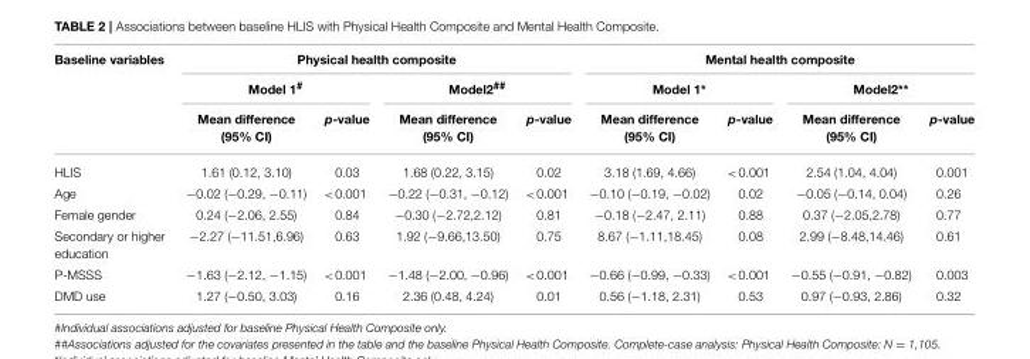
<table><thead><tr><td rowspan="3">Baseline variables</td><td colspan="4">Physical health composite</td><td colspan="4">Mental health composite</td></tr><tr><td colspan="2">Model 1<sup>#</sup></td><td colspan="2">Model2<sup>##</sup></td><td colspan="2">Model 1*</td><td colspan="2">Model2**</td></tr><tr><td>Mean difference (95% CI)</td><td>p-value</td><td>Mean difference (95% CI)</td><td>p-value</td><td>Mean difference (95% CI)</td><td>p-value</td><td>Mean difference (95% CI)</td><td>p-value</td></tr></thead><tbody><tr><td>HLIS</td><td>1.61 (0.12, 3.10)</td><td>0.03</td><td>1.68 (0.22, 3.15)</td><td>0.02</td><td>3.18 (1.69, 4.66)</td><td>&lt;0.001</td><td>2.54 (1.04, 4.04)</td><td>0.001</td></tr><tr><td>Age</td><td>−0.02 (−0.29, −0.11)</td><td>&lt;0.001</td><td>−0.22 (−0.31, −0.12)</td><td>&lt;0.001</td><td>−0.10 (−0.19, −0.02)</td><td>0.02</td><td>−0.05 (−0.14, 0.04)</td><td>0.26</td></tr><tr><td>Female gender</td><td>0.24 (−2.06, 2.55)</td><td>0.84</td><td>−0.30 (−2.72,2.12)</td><td>0.81</td><td>−0.18 (−2.47, 2.11)</td><td>0.88</td><td>0.37 (−2.05,2.78)</td><td>0.77</td></tr><tr><td>Secondary or higher education</td><td>−2.27 (−11.51,6.96)</td><td>0.63</td><td>1.92 (−9.66,13.50)</td><td>0.75</td><td>8.67 (−1.11,18.45)</td><td>0.08</td><td>2.99 (−8.48,14.46)</td><td>0.61</td></tr><tr><td>P-MSSS</td><td>−1.63 (−2.12, −1.15)</td><td>&lt;0.001</td><td>−1.48 (−2.00, −0.96)</td><td>&lt;0.001</td><td>−0.66 (−0.99, −0.33)</td><td>&lt;0.001</td><td>−0.55 (−0.91, −0.82)</td><td>0.003</td></tr><tr><td>DMD use</td><td>1.27 (−0.50, 3.03)</td><td>0.16</td><td>2.36 (0.48, 4.24)</td><td>0.01</td><td>0.56 (−1.18, 2.31)</td><td>0.53</td><td>0.97 (−0.93, 2.86)</td><td>0.32</td></tr></tbody></table>